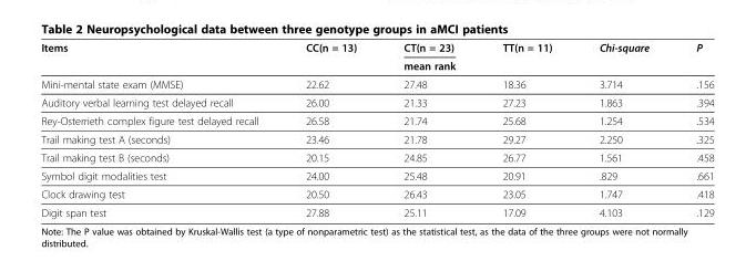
<table><thead><tr><td rowspan="2">Items</td><td rowspan="2">CC(n = 13)</td><td rowspan="2">CT(n = 23) mean rank</td><td rowspan="2">TT(n = 11)</td><td rowspan="2">Chi-square</td><td rowspan="2">P</td></tr><tr></tr></thead><tbody><tr><td>Mini-mental state exam (MMSE)</td><td>22.62</td><td>27.48</td><td>18.36</td><td>3.714</td><td>.156</td></tr><tr><td>Auditory verbal learning test delayed recall</td><td>26.00</td><td>21.33</td><td>27.23</td><td>1.863</td><td>.394</td></tr><tr><td>Rey-Osterrieth complex figure test delayed recall</td><td>26.58</td><td>21.74</td><td>25.68</td><td>1.254</td><td>.534</td></tr><tr><td>Trail making test A (seconds)</td><td>23.46</td><td>21.78</td><td>29.27</td><td>2.250</td><td>.325</td></tr><tr><td>Trail making test B (seconds)</td><td>20.15</td><td>24.85</td><td>26.77</td><td>1.561</td><td>.458</td></tr><tr><td>Symbol digit modalities test</td><td>24.00</td><td>25.48</td><td>20.91</td><td>.829</td><td>.661</td></tr><tr><td>Clock drawing test</td><td>20.50</td><td>26.43</td><td>23.05</td><td>1.747</td><td>.418</td></tr><tr><td>Digit span test</td><td>27.88</td><td>25.11</td><td>17.09</td><td>4.103</td><td>.129</td></tr></tbody></table>